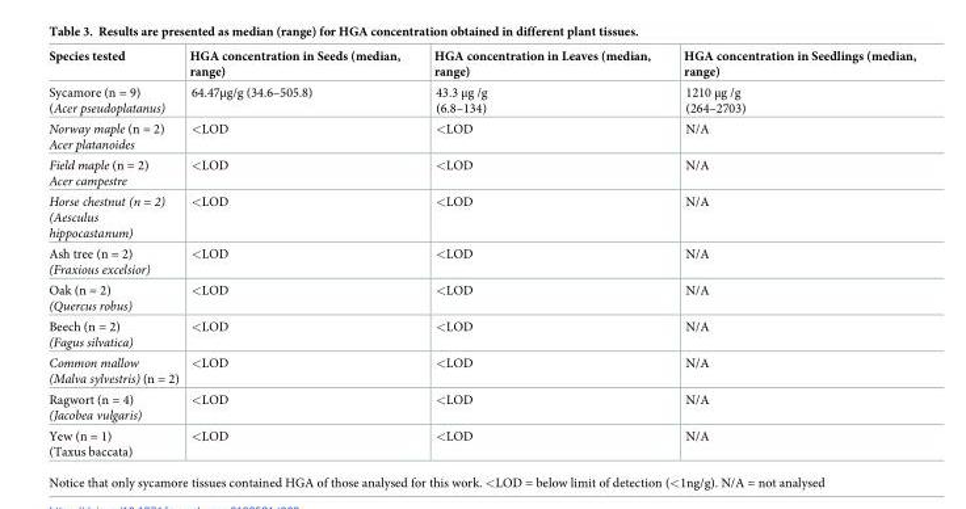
<table><thead><tr><td>Species tested</td><td>HGA concentration in Seeds (median, range)</td><td>HGA concentration in Leaves (median, range)</td><td>HGA concentration in Seedlings (median, range)</td></tr></thead><tbody><tr><td>Sycamore (n = 9) (Acer pseudoplatanus)</td><td>64.47μg/g (34.6–505.8)</td><td>43.3 μg /g (6.8–134)</td><td>1210 μg /g (264–2703)</td></tr><tr><td>Norway maple (n = 2) Acer platanoides</td><td>&lt;LOD</td><td>&lt;LOD</td><td>N/A</td></tr><tr><td>Field maple (n = 2) Acer campestre</td><td>&lt;LOD</td><td>&lt;LOD</td><td>N/A</td></tr><tr><td>Horse chestnut (n = 2) (Aesculus hippocastanum)</td><td>&lt;LOD</td><td>&lt;LOD</td><td>N/A</td></tr><tr><td>Ash tree (n = 2) (Fraxious excelsior)</td><td>&lt;LOD</td><td>&lt;LOD</td><td>N/A</td></tr><tr><td>Oak (n = 2) (Quercus robus)</td><td>&lt;LOD</td><td>&lt;LOD</td><td>N/A</td></tr><tr><td>Beech (n = 2) (Fagus silvatica)</td><td>&lt;LOD</td><td>&lt;LOD</td><td>N/A</td></tr><tr><td>Common mallow (Malva sylvestris) (n = 2)</td><td>&lt;LOD</td><td>&lt;LOD</td><td>N/A</td></tr><tr><td>Ragwort (n = 4) (Jacobea vulgaris)</td><td>&lt;LOD</td><td>&lt;LOD</td><td>N/A</td></tr><tr><td>Yew (n = 1) (Taxus baccata)</td><td>&lt;LOD</td><td>&lt;LOD</td><td>N/A</td></tr></tbody></table>